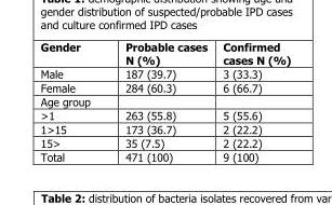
<table><thead><tr><td>Gender</td><td>Probable cases N (%)</td><td>Confirmed cases N (%)</td></tr></thead><tbody><tr><td>Male</td><td>187 (39.7)</td><td>3 (33.3)</td></tr><tr><td>Female</td><td>284 (60.3)</td><td>6 (66.7)</td></tr><tr><td colspan="3">Age group</td></tr><tr><td>&gt;1</td><td>263 (55.8)</td><td>5 (55.6)</td></tr><tr><td>1&gt;15</td><td>173 (36.7)</td><td>2 (22.2)</td></tr><tr><td>15&gt;</td><td>35 (7.5)</td><td>2 (22.2)</td></tr><tr><td>Total</td><td>471 (100)</td><td>9 (100)</td></tr></tbody></table>